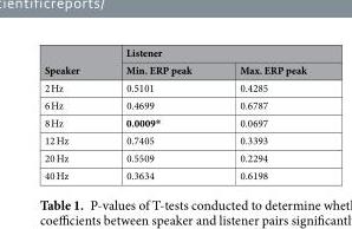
<table><thead><tr><td rowspan="2">Speaker</td><td colspan="2">Listener</td></tr><tr><td>Min. ERP peak</td><td>Max. ERP peak</td></tr></thead><tbody><tr><td>2 Hz</td><td>0.5101</td><td>0.4285</td></tr><tr><td>6 Hz</td><td>0.4699</td><td>0.6787</td></tr><tr><td>8 Hz</td><td>0.0009*</td><td>0.0697</td></tr><tr><td>12 Hz</td><td>0.7405</td><td>0.3393</td></tr><tr><td>20 Hz</td><td>0.5509</td><td>0.2294</td></tr><tr><td>40 Hz</td><td>0.3634</td><td>0.6198</td></tr></tbody></table>